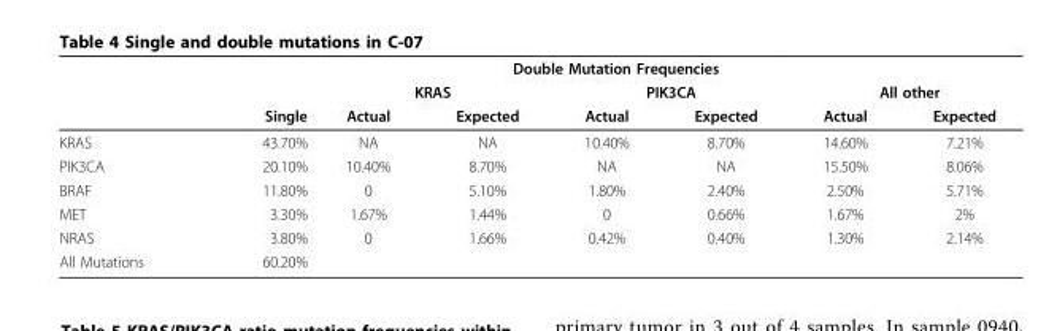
<table><thead><tr><td rowspan="3"></td><td colspan="7">Double Mutation Frequencies</td></tr><tr><td rowspan="2">Single</td><td colspan="2">KRAS</td><td colspan="2">PIK3CA</td><td colspan="2">All other</td></tr><tr><td>Actual</td><td>Expected</td><td>Actual</td><td>Expected</td><td>Actual</td><td>Expected</td></tr></thead><tbody><tr><td>KRAS</td><td>43.70%</td><td>NA</td><td>NA</td><td>10.40%</td><td>8.70%</td><td>14.60%</td><td>7.21%</td></tr><tr><td>PIK3CA</td><td>20.10%</td><td>10.40%</td><td>8.70%</td><td>NA</td><td>NA</td><td>15.50%</td><td>8.06%</td></tr><tr><td>BRAF</td><td>11.80%</td><td>0</td><td>5.10%</td><td>1.80%</td><td>2.40%</td><td>2.50%</td><td>5.71%</td></tr><tr><td>MET</td><td>3.30%</td><td>1.67%</td><td>1.44%</td><td>0</td><td>0.66%</td><td>1.67%</td><td>2%</td></tr><tr><td>NRAS</td><td>3.80%</td><td>0</td><td>1.66%</td><td>0.42%</td><td>0.40%</td><td>1.30%</td><td>2.14%</td></tr><tr><td>All Mutations</td><td>60.20%</td><td></td><td></td><td></td><td></td><td></td><td></td></tr></tbody></table>